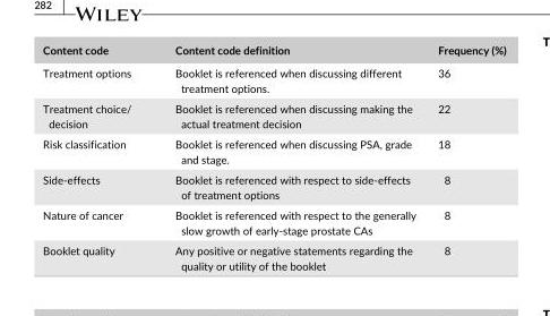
<table><thead><tr><td>Content code</td><td>Content code definition</td><td>Frequency (%)</td></tr></thead><tbody><tr><td>Treatment options</td><td>Booklet is referenced when discussing different treatment options.</td><td>36</td></tr><tr><td>Treatment choice/ decision</td><td>Booklet is referenced when discussing making the actual treatment decision</td><td>22</td></tr><tr><td>Risk classification</td><td>Booklet is referenced when discussing PSA, grade and stage.</td><td>18</td></tr><tr><td>Side- effects</td><td>Booklet is referenced with respect to side- effects of treatment options</td><td>8</td></tr><tr><td>Nature of cancer</td><td>Booklet is referenced with respect to the generally slow growth of early- stage prostate CAs</td><td>8</td></tr><tr><td>Booklet quality</td><td>Any positive or negative statements regarding the quality or utility of the booklet</td><td>8</td></tr></tbody></table>